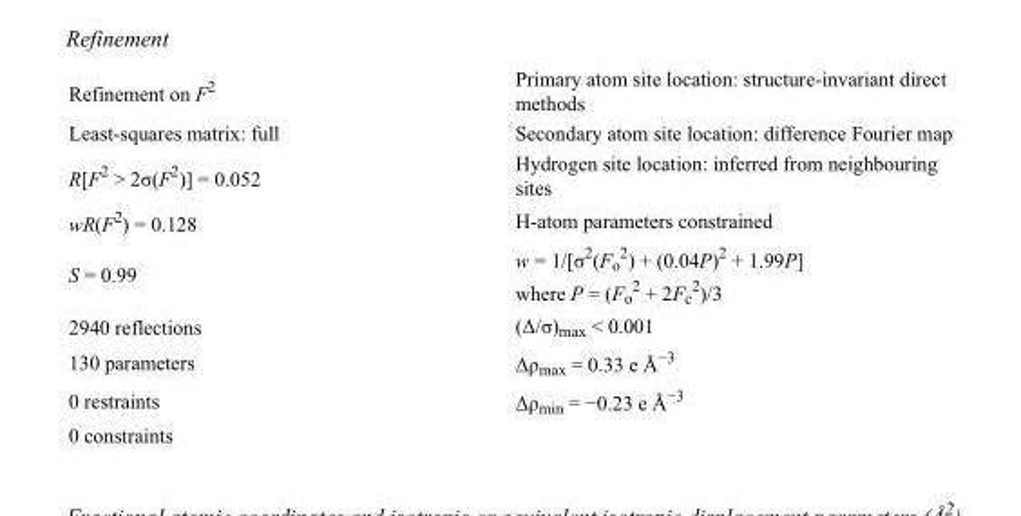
<table><tbody><tr><td>Refinement on F<sup>2</sup></td><td>Primary atom site location: structure-invariant direct methods</td></tr><tr><td>Least-squares matrix: full</td><td>Secondary atom site location: difference Fourier map</td></tr><tr><td>R[F<sup>2</sup> &gt; 2σ(F<sup>2</sup>)] = 0.052</td><td>Hydrogen site location: inferred from neighbouring sites</td></tr><tr><td>wR(F<sup>2</sup>) = 0.128</td><td>H-atom parameters constrained</td></tr><tr><td>S = 0.99</td><td>w = 1/[σ<sup>2</sup>(F<sub>o</sub> <sup>2</sup>) + (0.04P)<sup>2</sup> + 1.99P] where P = (F<sub>o</sub> <sup>2</sup> + 2F<sub>c</sub> <sup>2</sup>)/3</td></tr><tr><td>2940 reflections</td><td>(Δ/σ)<sub>max</sub> &lt; 0.001</td></tr><tr><td>130 parameters</td><td>Δρ<sub>max</sub> = 0.33 e Å<sup>−3</sup></td></tr><tr><td>0 restraints</td><td>Δρ<sub>min</sub> = −0.23 e Å<sup>−3</sup></td></tr><tr><td>0 constraints</td><td></td></tr></tbody></table>